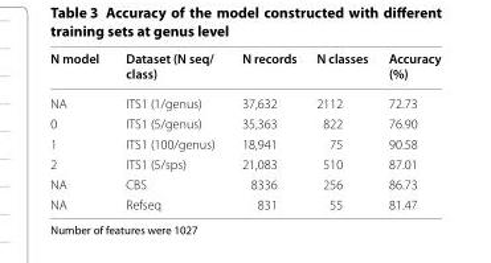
<table><thead><tr><td>N model</td><td>Dataset (N seq/ class)</td><td>N records</td><td>N classes</td><td>Accuracy (%)</td></tr></thead><tbody><tr><td>NA</td><td>ITS1 (1/genus)</td><td>37,632</td><td>2112</td><td>72.73</td></tr><tr><td>0</td><td>ITS1 (5/genus)</td><td>35,363</td><td>822</td><td>76.90</td></tr><tr><td>1</td><td>ITS1 (100/genus)</td><td>18,941</td><td>75</td><td>90.58</td></tr><tr><td>2</td><td>ITS1 (5/sps)</td><td>21,083</td><td>510</td><td>87.01</td></tr><tr><td>NA</td><td>CBS</td><td>8336</td><td>256</td><td>86.73</td></tr><tr><td>NA</td><td>Refseq</td><td>831</td><td>55</td><td>81.47</td></tr></tbody></table>